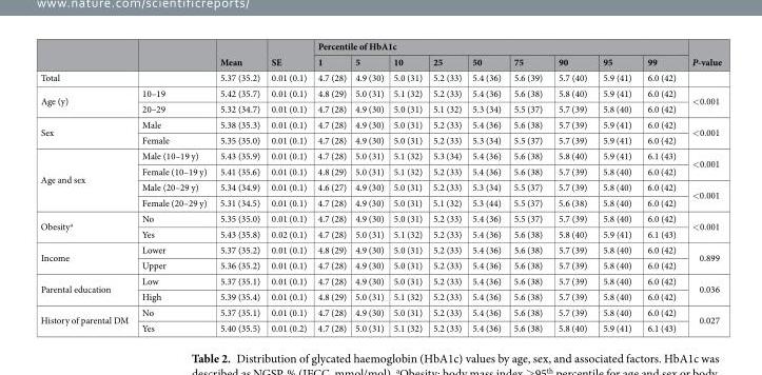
<table><thead><tr><td rowspan="2"></td><td rowspan="2"></td><td rowspan="2">Mean</td><td rowspan="2">SE</td><td colspan="9">Percentile of HbA1c</td><td rowspan="2">P-value</td></tr><tr><td>1</td><td>5</td><td>10</td><td>25</td><td>50</td><td>75</td><td>90</td><td>95</td><td>99</td></tr></thead><tbody><tr><td>Total</td><td></td><td>5.37 (35.2)</td><td>0.01 (0.1)</td><td>4.7 (28)</td><td>4.9 (30)</td><td>5.0 (31)</td><td>5.2 (33)</td><td>5.4 (36)</td><td>5.6 (39)</td><td>5.7 (40)</td><td>5.9 (41)</td><td>6.0 (42)</td><td></td></tr><tr><td rowspan="2">Age (y)</td><td>10–19</td><td>5.42 (35.7)</td><td>0.01 (0.1)</td><td>4.8 (29)</td><td>5.0 (31)</td><td>5.1 (32)</td><td>5.2 (33)</td><td>5.4 (36)</td><td>5.6 (38)</td><td>5.8 (40)</td><td>5.9 (41)</td><td>6.0 (42)</td><td rowspan="2">&lt;0.001</td></tr><tr><td>20–29</td><td>5.32 (34.7)</td><td>0.01 (0.1)</td><td>4.7 (28)</td><td>4.9 (30)</td><td>5.0 (31)</td><td>5.1 (32)</td><td>5.3 (34)</td><td>5.5 (37)</td><td>5.7 (39)</td><td>5.8 (40)</td><td>6.0 (42)</td></tr><tr><td rowspan="2">Sex</td><td>Male</td><td>5.38 (35.3)</td><td>0.01 (0.1)</td><td>4.7 (28)</td><td>4.9 (30)</td><td>5.0 (31)</td><td>5.2 (33)</td><td>5.4 (36)</td><td>5.6 (38)</td><td>5.7 (39)</td><td>5.9 (41)</td><td>6.0 (42)</td><td rowspan="2">&lt;0.001</td></tr><tr><td>Female</td><td>5.35 (35.0)</td><td>0.01 (0.1)</td><td>4.7 (28)</td><td>4.9 (30)</td><td>5.0 (31)</td><td>5.2 (33)</td><td>5.3 (34)</td><td>5.5 (37)</td><td>5.7 (39)</td><td>5.9 (41)</td><td>6.0 (42)</td></tr><tr><td rowspan="4">Age and sex</td><td>Male (10–19 y)</td><td>5.43 (35.9)</td><td>0.01 (0.1)</td><td>4.7 (28)</td><td>5.0 (31)</td><td>5.1 (32)</td><td>5.3 (34)</td><td>5.4 (36)</td><td>5.6 (38)</td><td>5.8 (40)</td><td>5.9 (41)</td><td>6.1 (43)</td><td rowspan="2">&lt;0.001</td></tr><tr><td>Female (10–19 y)</td><td>5.41 (35.6)</td><td>0.01 (0.1)</td><td>4.8 (29)</td><td>5.0 (31)</td><td>5.1 (32)</td><td>5.2 (33)</td><td>5.4 (36)</td><td>5.6 (38)</td><td>5.7 (39)</td><td>5.8 (40)</td><td>6.0 (42)</td></tr><tr><td>Male (20–29 y)</td><td>5.34 (34.9)</td><td>0.01 (0.1)</td><td>4.6 (27)</td><td>4.9 (30)</td><td>5.0 (31)</td><td>5.2 (33)</td><td>5.3 (34)</td><td>5.5 (37)</td><td>5.7 (39)</td><td>5.8 (40)</td><td>6.0 (42)</td><td rowspan="2">&lt;0.001</td></tr><tr><td>Female (20–29 y)</td><td>5.31 (34.5)</td><td>0.01 (0.1)</td><td>4.7 (28)</td><td>4.9 (30)</td><td>5.0 (31)</td><td>5.1 (32)</td><td>5.3 (44)</td><td>5.5 (37)</td><td>5.6 (38)</td><td>5.8 (40)</td><td>6.0 (42)</td></tr><tr><td rowspan="2">Obesity<sup>a</sup></td><td>No</td><td>5.35 (35.0)</td><td>0.01 (0.1)</td><td>4.7 (28)</td><td>4.9 (30)</td><td>5.0 (31)</td><td>5.2 (33)</td><td>5.4 (36)</td><td>5.5 (37)</td><td>5.7 (39)</td><td>5.8 (40)</td><td>6.0 (42)</td><td rowspan="2">&lt;0.001</td></tr><tr><td>Yes</td><td>5.43 (35.8)</td><td>0.02 (0.1)</td><td>4.7 (28)</td><td>5.0 (31)</td><td>5.1 (32)</td><td>5.2 (33)</td><td>5.4 (36)</td><td>5.6 (38)</td><td>5.8 (40)</td><td>5.9 (41)</td><td>6.1 (43)</td></tr><tr><td rowspan="2">Income</td><td>Lower</td><td>5.37 (35.2)</td><td>0.01 (0.1)</td><td>4.8 (29)</td><td>4.9 (30)</td><td>5.0 (31)</td><td>5.2 (33)</td><td>5.4 (36)</td><td>5.6 (38)</td><td>5.7 (39)</td><td>5.8 (40)</td><td>6.0 (42)</td><td rowspan="2">0.899</td></tr><tr><td>Upper</td><td>5.36 (35.2)</td><td>0.01 (0.1)</td><td>4.7 (28)</td><td>4.9 (30)</td><td>5.0 (31)</td><td>5.2 (33)</td><td>5.4 (36)</td><td>5.6 (38)</td><td>5.7 (39)</td><td>5.8 (40)</td><td>6.0 (42)</td></tr><tr><td rowspan="2">Parental education</td><td>Low</td><td>5.37 (35.1)</td><td>0.01 (0.1)</td><td>4.7 (28)</td><td>4.9 (30)</td><td>5.0 (31)</td><td>5.2 (33)</td><td>5.4 (36)</td><td>5.6 (38)</td><td>5.7 (39)</td><td>5.8 (40)</td><td>6.0 (42)</td><td rowspan="2">0.036</td></tr><tr><td>High</td><td>5.39 (35.4)</td><td>0.01 (0.1)</td><td>4.8 (29)</td><td>5.0 (31)</td><td>5.1 (32)</td><td>5.2 (33)</td><td>5.4 (36)</td><td>5.6 (38)</td><td>5.7 (39)</td><td>5.8 (40)</td><td>6.0 (42)</td></tr><tr><td rowspan="2">History of parental DM</td><td>No</td><td>5.37 (35.1)</td><td>0.01 (0.1)</td><td>4.7 (28)</td><td>4.9 (30)</td><td>5.0 (31)</td><td>5.2 (33)</td><td>5.4 (36)</td><td>5.6 (38)</td><td>5.7 (39)</td><td>5.8 (40)</td><td>6.0 (42)</td><td rowspan="2">0.027</td></tr><tr><td>Yes</td><td>5.40 (35.5)</td><td>0.01 (0.2)</td><td>4.7 (28)</td><td>5.0 (31)</td><td>5.1 (32)</td><td>5.2 (33)</td><td>5.4 (36)</td><td>5.6 (38)</td><td>5.8 (40)</td><td>5.9 (41)</td><td>6.1 (43)</td></tr></tbody></table>